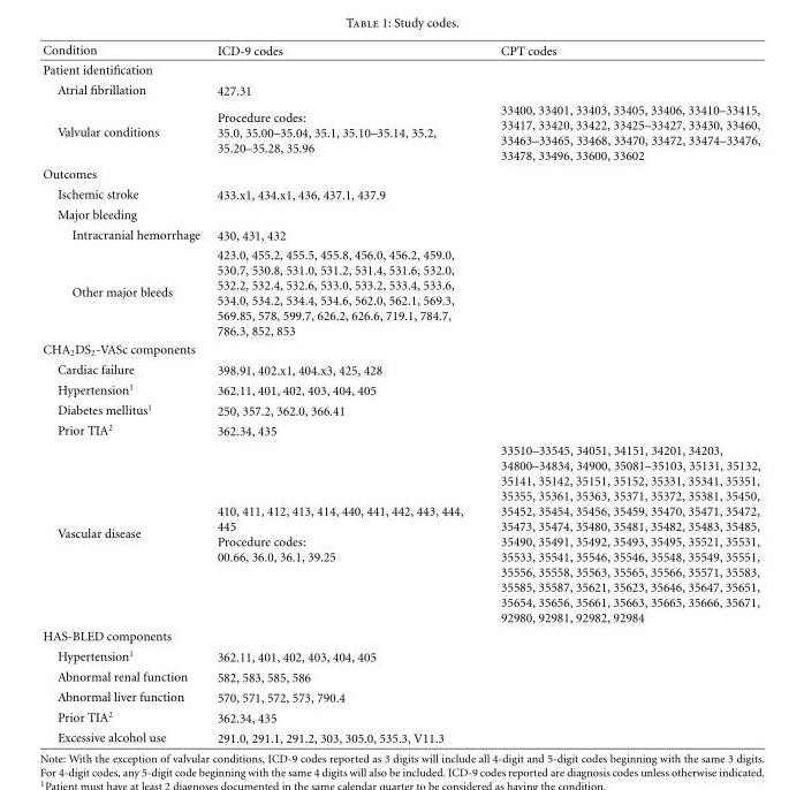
<table><thead><tr><td>Condition</td><td>ICD-9 codes</td><td>CPT codes</td></tr></thead><tbody><tr><td colspan="3">Patient identification</td></tr><tr><td>Atrial fibrillation</td><td>427.31</td><td></td></tr><tr><td>Valvular conditions</td><td>Procedure codes: 35.0, 35.00–35.04, 35.1, 35.10–35.14, 35.2, 35.20–35.28, 35.96</td><td>33400, 33401, 33403, 33405, 33406, 33410–33415, 33417, 33420, 33422, 33425–33427, 33430, 33460, 33463–33465, 33468, 33470, 33472, 33474–33476, 33478, 33496, 33600, 33602</td></tr><tr><td colspan="3">Outcomes</td></tr><tr><td>Ischemic stroke</td><td>433.x1, 434.x1, 436, 437.1, 437.9</td><td></td></tr><tr><td colspan="3">Major bleeding</td></tr><tr><td>Intracranial hemorrhage</td><td>430, 431, 432</td><td></td></tr><tr><td>Other major bleeds</td><td>423.0, 455.2, 455.5, 455.8, 456.0, 456.2, 459.0, 530.7, 530.8, 531.0, 531.2, 531.4, 531.6, 532.0, 532.2, 532.4, 532.6, 533.0, 533.2, 533.4, 533.6, 534.0, 534.2, 534.4, 534.6, 562.0, 562.1, 569.3, 569.85, 578, 599.7, 626.2, 626.6, 719.1, 784.7, 786.3, 852, 853</td><td></td></tr><tr><td colspan="3">CHA<sub>2</sub>DS<sub>2</sub>-VASc components</td></tr><tr><td>Cardiac failure</td><td>398.91, 402.x1, 404.x3, 425, 428</td><td></td></tr><tr><td>Hypertension<sup>1</sup></td><td>362.11, 401, 402, 403, 404, 405</td><td></td></tr><tr><td>Diabetes mellitus<sup>1</sup></td><td>250, 357.2, 362.0, 366.41</td><td></td></tr><tr><td>Prior TIA<sup>2</sup></td><td>362.34, 435</td><td></td></tr><tr><td>Vascular disease</td><td>410, 411, 412, 413, 414, 440, 441, 442, 443, 444, 445 Procedure codes: 00.66, 36.0, 36.1, 39.25</td><td>33510–33545, 34051, 34151, 34201, 34203, 34800–34834, 34900, 35081–35103, 35131, 35132, 35141, 35142, 35151, 35152, 35331, 35341, 35351, 35355, 35361, 35363, 35371, 35372, 35381, 35450, 35452, 35454, 35456, 35459, 35470, 35471, 35472, 35473, 35474, 35480, 35481, 35482, 35483, 35485, 35490, 35491, 35492, 35493, 35495, 35521, 35531, 35533, 35541, 35546, 35546, 35548, 35549, 35551, 35556, 35558, 35563, 35565, 35566, 35571, 35583, 35585, 35587, 35621, 35623, 35646, 35647, 35651, 35654, 35656, 35661, 35663, 35665, 35666, 35671, 92980, 92981, 92982, 92984</td></tr><tr><td colspan="3">HAS-BLED components</td></tr><tr><td>Hypertension<sup>1</sup></td><td>362.11, 401, 402, 403, 404, 405</td><td></td></tr><tr><td>Abnormal renal function</td><td>582, 583, 585, 586</td><td></td></tr><tr><td>Abnormal liver function</td><td>570, 571, 572, 573, 790.4</td><td></td></tr><tr><td>Prior TIA<sup>2</sup></td><td>362.34, 435</td><td></td></tr><tr><td>Excessive alcohol use</td><td>291.0, 291.1, 291.2, 303, 305.0, 535.3, V11.3</td><td></td></tr></tbody></table>